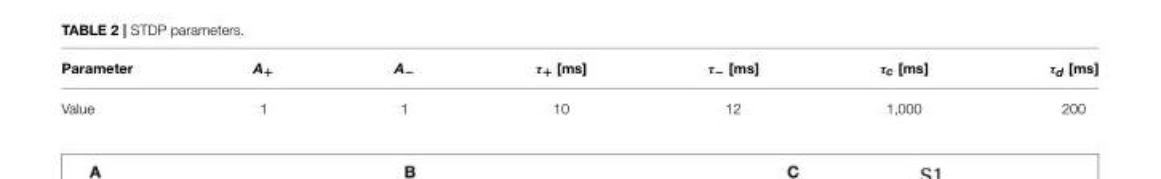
<table><thead><tr><td>Parameter</td><td>A<sub>+</sub></td><td>A<sub>−</sub></td><td>τ<sub>+</sub> [ms]</td><td>τ<sub>−</sub> [ms]</td><td>τ<sub>c</sub> [ms]</td><td>τ<sub>d</sub> [ms]</td></tr></thead><tbody><tr><td>Value</td><td>1</td><td>1</td><td>10</td><td>12</td><td>1,000</td><td>200</td></tr></tbody></table>